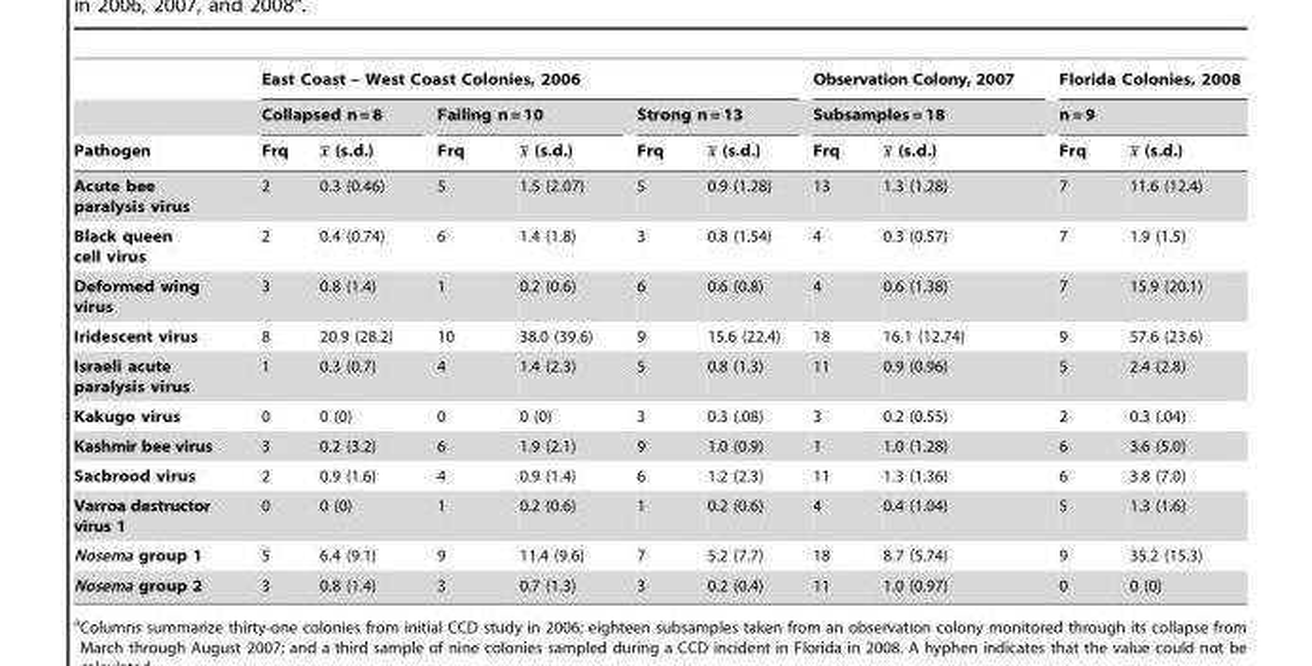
<table><thead><tr><td rowspan="3">Pathogen</td><td colspan="6">East Coast – West Coast Colonies, 2006</td><td rowspan="2" colspan="2">Observation Colony, 2007 Subsamples = 18</td><td rowspan="2" colspan="2">Florida Colonies, 2008 n = 9</td></tr><tr><td colspan="2">Collapsed n = 8</td><td colspan="2">Failing n = 10</td><td colspan="2">Strong n = 13</td></tr><tr><td>Frq</td><td>x (s.d.)</td><td>Frq</td><td>x (s.d.)</td><td>Frq</td><td>x (s.d.)</td><td>Frq</td><td>x (s.d.)</td><td>Frq</td><td>x (s.d.)</td></tr></thead><tbody><tr><td>Acute bee paralysis virus</td><td>2</td><td>0.3 (0.46)</td><td>5</td><td>1.5 (2.07)</td><td>5</td><td>0.9 (1.28)</td><td>13</td><td>1.3 (1.28)</td><td>7</td><td>11.6 (12.4)</td></tr><tr><td>Black queen cell virus</td><td>2</td><td>0.4 (0.74)</td><td>6</td><td>1.4 (1.8)</td><td>3</td><td>0.8 (1.54)</td><td>4</td><td>0.3 (0.57)</td><td>7</td><td>1.9 (1.5)</td></tr><tr><td>Deformed wing virus</td><td>3</td><td>0.8 (1.4)</td><td>1</td><td>0.2 (0.6)</td><td>6</td><td>0.6 (0.8)</td><td>4</td><td>0.6 (1.38)</td><td>7</td><td>15.9 (20.1)</td></tr><tr><td>Iridescent virus</td><td>8</td><td>20.9 (28.2)</td><td>10</td><td>38.0 (39.6)</td><td>9</td><td>15.6 (22.4)</td><td>18</td><td>16.1 (12.74)</td><td>9</td><td>57.6 (23.6)</td></tr><tr><td>Israeli acute paralysis virus</td><td>1</td><td>0.3 (0.7)</td><td>4</td><td>1.4 (2.3)</td><td>5</td><td>0.8 (1.3)</td><td>11</td><td>0.9 (0.96)</td><td>5</td><td>2.4 (2.8)</td></tr><tr><td>Kakugo virus</td><td>0</td><td>0 (0)</td><td>0</td><td>0 (0)</td><td>3</td><td>0.3 (.08)</td><td>3</td><td>0.2 (0.55)</td><td>2</td><td>0.3 (.04)</td></tr><tr><td>Kashmir bee virus</td><td>3</td><td>0.2 (3.2)</td><td>6</td><td>1.9 (2.1)</td><td>9</td><td>1.0 (0.9)</td><td>1</td><td>1.0 (1.28)</td><td>6</td><td>3.6 (5.0)</td></tr><tr><td>Sacbrood virus</td><td>2</td><td>0.9 (1.6)</td><td>4</td><td>0.9 (1.4)</td><td>6</td><td>1.2 (2.3)</td><td>11</td><td>1.3 (1.36)</td><td>6</td><td>3.8 (7.0)</td></tr><tr><td>Varroa destructor virus 1</td><td>0</td><td>0 (0)</td><td>1</td><td>0.2 (0.6)</td><td>1</td><td>0.2 (0.6)</td><td>4</td><td>0.4 (1.04)</td><td>5</td><td>1.3 (1.6)</td></tr><tr><td>Nosema group 1</td><td>5</td><td>6.4 (9.1)</td><td>9</td><td>11.4 (9.6)</td><td>7</td><td>5.2 (7.7)</td><td>18</td><td>8.7 (5.74)</td><td>9</td><td>35.2 (15.3)</td></tr><tr><td>Nosema group 2</td><td>3</td><td>0.8 (1.4)</td><td>3</td><td>0.7 (1.3)</td><td>3</td><td>0.2 (0.4)</td><td>11</td><td>1.0 (0.97)</td><td>0</td><td>0 (0)</td></tr></tbody></table>